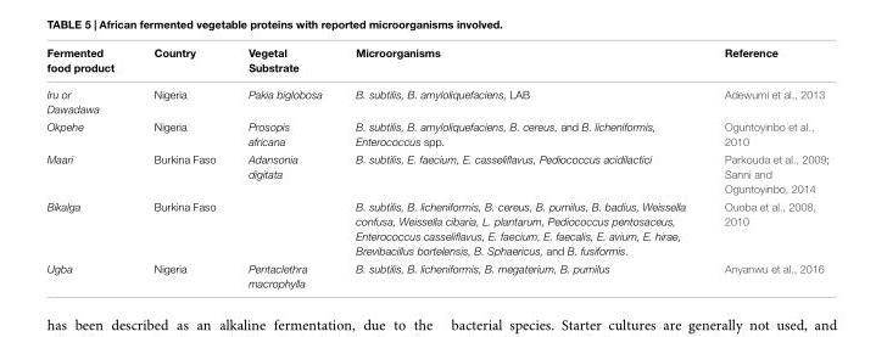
<table><thead><tr><td>Fermented food product</td><td>Country</td><td>Vegetal Substrate</td><td>Microorganisms</td><td>Reference</td></tr></thead><tbody><tr><td>Iru or Dawadawa</td><td>Nigeria</td><td>Pakia biglobosa</td><td>B. subtilis, B. amyloliquefaciens, LAB</td><td>Adewumi et al., 2013</td></tr><tr><td>Okpehe</td><td>Nigeria</td><td>Prosopis africana</td><td>B. subtilis, B. amyloliquefaciens, B. cereus, and B. licheniformis, Enterococcus spp.</td><td>Oguntoyinbo et al., 2010</td></tr><tr><td>Maari</td><td>Burkina Faso</td><td>Adansonia digitata</td><td>B. subtilis, E. faecium, E. casseliflavus, Pediococcus acidilactici</td><td>Parkouda et al., 2009; Sanni and Oguntoyinbo, 2014</td></tr><tr><td>Bikalga</td><td>Burkina Faso</td><td></td><td>B. subtilis, B. licheniformis, B. cereus, B. pumilus, B. badius, Weissella confusa, Weissella cibaria, L. plantarum, Pediococcus pentosaceus, Enterococcus casseliflavus, E. faecium, E. faecalis, E. avium, E. hirae, Brevibacillus bortelensis, B. Sphaericus, and B. fusiformis.</td><td>Ouoba et al., 2008, 2010</td></tr><tr><td>Ugba</td><td>Nigeria</td><td>Pentaclethra macrophylla</td><td>B. subtilis, B. licheniformis, B. megaterium, B. pumilus</td><td>Anyanwu et al., 2016</td></tr></tbody></table>